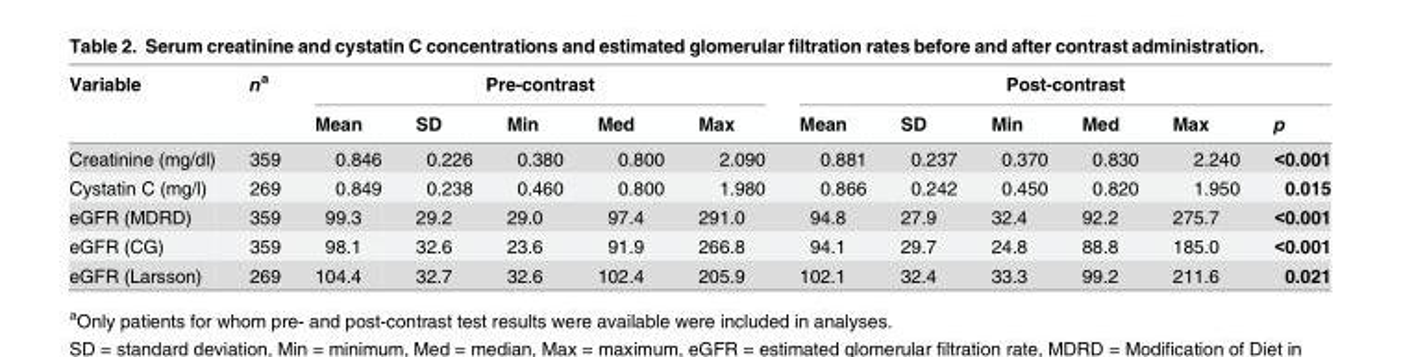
<table><thead><tr><td rowspan="2">Variable</td><td rowspan="2">n<sup>a</sup></td><td colspan="5">Pre-contrast</td><td colspan="6">Post-contrast</td></tr><tr><td>Mean</td><td>SD</td><td>Min</td><td>Med</td><td>Max</td><td>Mean</td><td>SD</td><td>Min</td><td>Med</td><td>Max</td><td>p</td></tr></thead><tbody><tr><td>Creatinine (mg/dl)</td><td>359</td><td>0.846</td><td>0.226</td><td>0.380</td><td>0.800</td><td>2.090</td><td>0.881</td><td>0.237</td><td>0.370</td><td>0.830</td><td>2.240</td><td>&lt;0.001</td></tr><tr><td>Cystatin C (mg/l)</td><td>269</td><td>0.849</td><td>0.238</td><td>0.460</td><td>0.800</td><td>1.980</td><td>0.866</td><td>0.242</td><td>0.450</td><td>0.820</td><td>1.950</td><td>0.015</td></tr><tr><td>eGFR (MDRD)</td><td>359</td><td>99.3</td><td>29.2</td><td>29.0</td><td>97.4</td><td>291.0</td><td>94.8</td><td>27.9</td><td>32.4</td><td>92.2</td><td>275.7</td><td>&lt;0.001</td></tr><tr><td>eGFR (CG)</td><td>359</td><td>98.1</td><td>32.6</td><td>23.6</td><td>91.9</td><td>266.8</td><td>94.1</td><td>29.7</td><td>24.8</td><td>88.8</td><td>185.0</td><td>&lt;0.001</td></tr><tr><td>eGFR (Larsson)</td><td>269</td><td>104.4</td><td>32.7</td><td>32.6</td><td>102.4</td><td>205.9</td><td>102.1</td><td>32.4</td><td>33.3</td><td>99.2</td><td>211.6</td><td>0.021</td></tr></tbody></table>